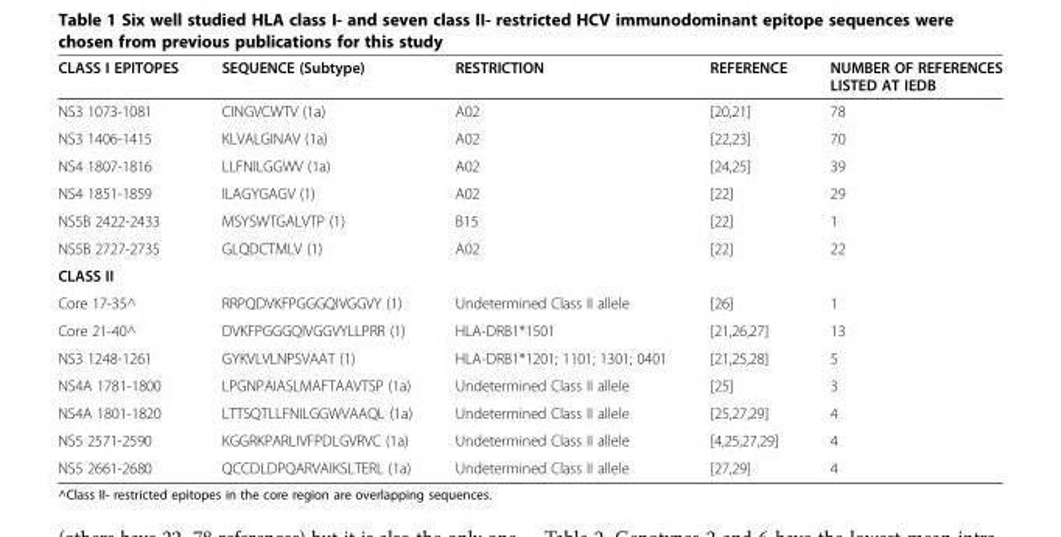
<table><thead><tr><td>CLASS I EPITOPES</td><td>SEQUENCE (Subtype)</td><td>RESTRICTION</td><td>REFERENCE</td><td>NUMBER OF REFERENCES LISTED AT IEDB</td></tr></thead><tbody><tr><td>NS3 1073-1081</td><td>CINGVCWTV (1a)</td><td>A02</td><td>[20,21]</td><td>78</td></tr><tr><td>NS3 1406-1415</td><td>KLVALGINAV (1a)</td><td>A02</td><td>[22,23]</td><td>70</td></tr><tr><td>NS4 1807-1816</td><td>LLFNILGGWV (1a)</td><td>A02</td><td>[24,25]</td><td>39</td></tr><tr><td>NS4 1851-1859</td><td>ILAGYGAGV (1)</td><td>A02</td><td>[22]</td><td>29</td></tr><tr><td>NS5B 2422-2433</td><td>MSYSWTGALVTP (1)</td><td>B15</td><td>[22]</td><td>1</td></tr><tr><td>NS5B 2727-2735</td><td>GLQDCTMLV (1)</td><td>A02</td><td>[22]</td><td>22</td></tr><tr><td colspan="5">CLASS II</td></tr><tr><td>Core 17-35^</td><td>RRPQDVKFPGGGQIVGGVY (1)</td><td>Undetermined Class II allele</td><td>[26]</td><td>1</td></tr><tr><td>Core 21-40^</td><td>DVKFPGGGQIVGGVYLLPRR (1)</td><td>HLA-DRB1*1501</td><td>[21,26,27]</td><td>13</td></tr><tr><td>NS3 1248-1261</td><td>GYKVLVLNPSVAAT (1)</td><td>HLA-DRB1*1201; 1101; 1301; 0401</td><td>[21,25,28]</td><td>5</td></tr><tr><td>NS4A 1781-1800</td><td>LPGNPAIASLMAFTAAVTSP (1a)</td><td>Undetermined Class II allele</td><td>[25]</td><td>3</td></tr><tr><td>NS4A 1801-1820</td><td>LTTSQTLLFNILGGWVAAQL (1a)</td><td>Undetermined Class II allele</td><td>[25,27,29]</td><td>4</td></tr><tr><td>NS5 2571-2590</td><td>KGGRKPARLIVFPDLGVRVC (1a)</td><td>Undetermined Class II allele</td><td>[4,25,27,29]</td><td>4</td></tr><tr><td>NS5 2661-2680</td><td>QCCDLDPQARVAIKSLTERL (1a)</td><td>Undetermined Class II allele</td><td>[27,29]</td><td>4</td></tr></tbody></table>